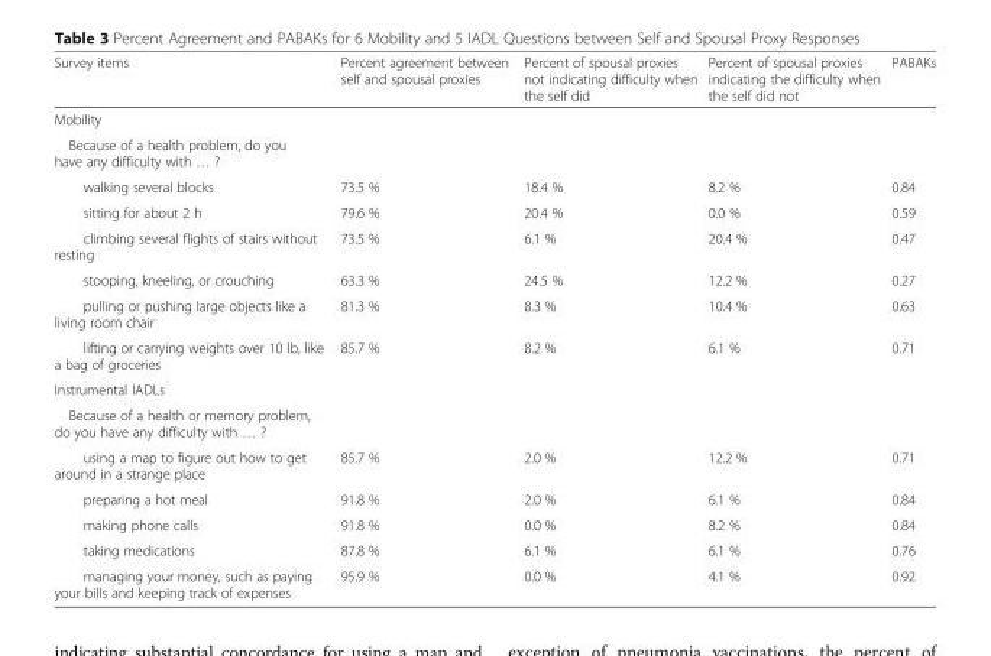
<table><thead><tr><td>Survey items</td><td>Percent agreement between self and spousal proxies</td><td>Percent of spousal proxies not indicating difficulty when the self did</td><td>Percent of spousal proxies indicating the difficulty when the self did not</td><td>PABAKs</td></tr></thead><tbody><tr><td colspan="5">Mobility</td></tr><tr><td colspan="5">Because of a health problem, do you have any difficulty with … ?</td></tr><tr><td>walking several blocks</td><td>73.5 %</td><td>18.4 %</td><td>8.2 %</td><td>0.84</td></tr><tr><td>sitting for about 2 h</td><td>79.6 %</td><td>20.4 %</td><td>0.0 %</td><td>0.59</td></tr><tr><td>climbing several flights of stairs without resting</td><td>73.5 %</td><td>6.1 %</td><td>20.4 %</td><td>0.47</td></tr><tr><td>stooping, kneeling, or crouching</td><td>63.3 %</td><td>24.5 %</td><td>12.2 %</td><td>0.27</td></tr><tr><td>pulling or pushing large objects like a living room chair</td><td>81.3 %</td><td>8.3 %</td><td>10.4 %</td><td>0.63</td></tr><tr><td>lifting or carrying weights over 10 lb, like a bag of groceries</td><td>85.7 %</td><td>8.2 %</td><td>6.1 %</td><td>0.71</td></tr><tr><td colspan="5">Instrumental IADLs</td></tr><tr><td colspan="5">Because of a health or memory problem, do you have any difficulty with … ?</td></tr><tr><td>using a map to figure out how to get around in a strange place</td><td>85.7 %</td><td>2.0 %</td><td>12.2 %</td><td>0.71</td></tr><tr><td>preparing a hot meal</td><td>91.8 %</td><td>2.0 %</td><td>6.1 %</td><td>0.84</td></tr><tr><td>making phone calls</td><td>91.8 %</td><td>0.0 %</td><td>8.2 %</td><td>0.84</td></tr><tr><td>taking medications</td><td>87.8 %</td><td>6.1 %</td><td>6.1 %</td><td>0.76</td></tr><tr><td>managing your money, such as paying your bills and keeping track of expenses</td><td>95.9 %</td><td>0.0 %</td><td>4.1 %</td><td>0.92</td></tr></tbody></table>